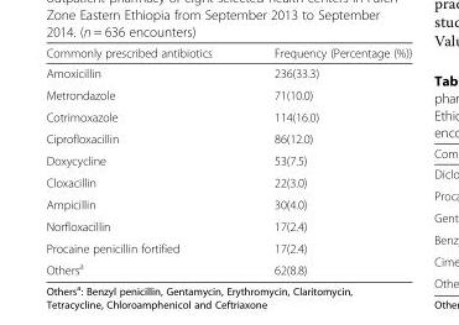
<table><thead><tr><td>Commonly prescribed antibiotics</td><td>Frequency (Percentage (%))</td></tr></thead><tbody><tr><td>Amoxicillin</td><td>236(33.3)</td></tr><tr><td>Metrondazole</td><td>71(10.0)</td></tr><tr><td>Cotrimoxazole</td><td>114(16.0)</td></tr><tr><td>Ciprofloxacillin</td><td>86(12.0)</td></tr><tr><td>Doxycycline</td><td>53(7.5)</td></tr><tr><td>Cloxacillin</td><td>22(3.0)</td></tr><tr><td>Ampicillin</td><td>30(4.0)</td></tr><tr><td>Norfloxacillin</td><td>17(2.4)</td></tr><tr><td>Procaine penicillin fortified</td><td>17(2.4)</td></tr><tr><td>Others<sup>a</sup></td><td>62(8.8)</td></tr></tbody></table>